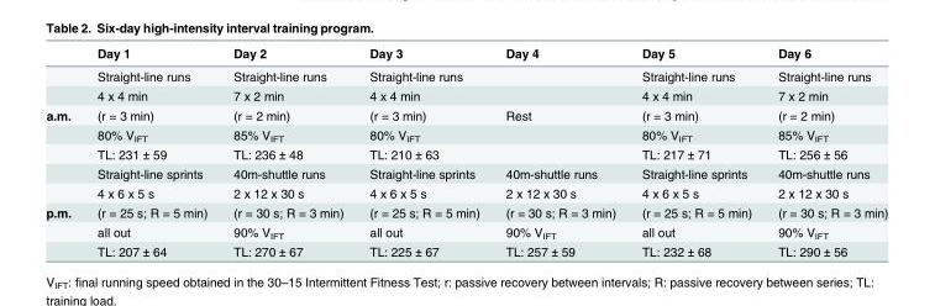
<table><thead><tr><td></td><td>Day 1</td><td>Day 2</td><td>Day 3</td><td>Day 4</td><td>Day 5</td><td>Day 6</td></tr></thead><tbody><tr><td></td><td>Straight-line runs</td><td>Straight-line runs</td><td>Straight-line runs</td><td></td><td>Straight-line runs</td><td>Straight-line runs</td></tr><tr><td></td><td>4 x 4 min</td><td>7 x 2 min</td><td>4 x 4 min</td><td></td><td>4 x 4 min</td><td>7 x 2 min</td></tr><tr><td rowspan="5">a.m.</td><td>(r = 3 min)</td><td>(r = 2 min)</td><td>(r = 3 min)</td><td>Rest</td><td>(r = 3 min)</td><td>(r = 2 min)</td></tr><tr><td>80% V<sub>IFT</sub></td><td>85% V<sub>IFT</sub></td><td>80% V<sub>IFT</sub></td><td></td><td>80% V<sub>IFT</sub></td><td>85% V<sub>IFT</sub></td></tr><tr><td>TL: 231 ± 59</td><td>TL: 236 ± 48</td><td>TL: 210 ± 63</td><td></td><td>TL: 217 ± 71</td><td>TL: 256 ± 56</td></tr><tr><td>Straight-line sprints</td><td>40m-shuttle runs</td><td>Straight-line sprints</td><td>40m-shuttle runs</td><td>Straight-line sprints</td><td>40m-shuttle runs</td></tr><tr><td>4 x 6 x 5 s</td><td>2 x 12 x 30 s</td><td>4 x 6 x 5 s</td><td>2 x 12 x 30 s</td><td>4 x 6 x 5 s</td><td>2 x 12 x 30 s</td></tr><tr><td rowspan="3">p.m.</td><td>(r = 25 s; R = 5 min)</td><td>(r = 30 s; R = 3 min)</td><td>(r = 25 s; R = 5 min)</td><td>(r = 30 s; R = 3 min)</td><td>(r = 25 s; R = 5 min)</td><td>(r = 30 s; R = 3 min)</td></tr><tr><td>all out</td><td>90% V<sub>IFT</sub></td><td>all out</td><td>90% V<sub>IFT</sub></td><td>all out</td><td>90% V<sub>IFT</sub></td></tr><tr><td>TL: 207 ± 64</td><td>TL: 270 ± 67</td><td>TL: 225 ± 67</td><td>TL: 257 ± 59</td><td>TL: 232 ± 68</td><td>TL: 290 ± 56</td></tr></tbody></table>